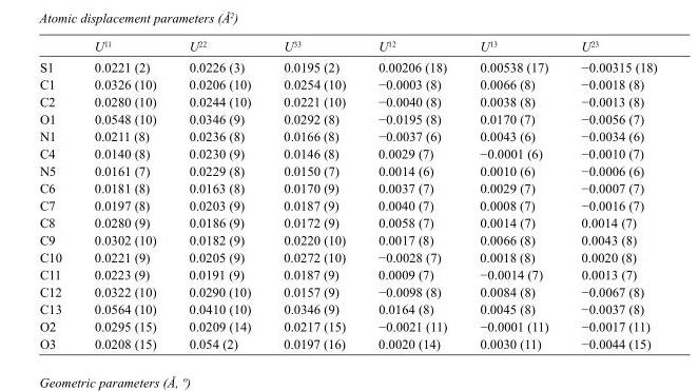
<table><thead><tr><td></td><td>U<sup>11</sup></td><td>U<sup>22</sup></td><td>U<sup>33</sup></td><td>U<sup>12</sup></td><td>U<sup>13</sup></td><td>U<sup>23</sup></td></tr></thead><tbody><tr><td>S1</td><td>0.0221 (2)</td><td>0.0226 (3)</td><td>0.0195 (2)</td><td>0.00206 (18)</td><td>0.00538 (17)</td><td>−0.00315 (18)</td></tr><tr><td>C1</td><td>0.0326 (10)</td><td>0.0206 (10)</td><td>0.0254 (10)</td><td>−0.0003 (8)</td><td>0.0066 (8)</td><td>−0.0018 (8)</td></tr><tr><td>C2</td><td>0.0280 (10)</td><td>0.0244 (10)</td><td>0.0221 (10)</td><td>−0.0040 (8)</td><td>0.0038 (8)</td><td>−0.0013 (8)</td></tr><tr><td>O1</td><td>0.0548 (10)</td><td>0.0346 (9)</td><td>0.0292 (8)</td><td>−0.0195 (8)</td><td>0.0170 (7)</td><td>−0.0056 (7)</td></tr><tr><td>N1</td><td>0.0211 (8)</td><td>0.0236 (8)</td><td>0.0166 (8)</td><td>−0.0037 (6)</td><td>0.0043 (6)</td><td>−0.0034 (6)</td></tr><tr><td>C4</td><td>0.0140 (8)</td><td>0.0230 (9)</td><td>0.0146 (8)</td><td>0.0029 (7)</td><td>−0.0001 (6)</td><td>−0.0010 (7)</td></tr><tr><td>N5</td><td>0.0161 (7)</td><td>0.0229 (8)</td><td>0.0150 (7)</td><td>0.0014 (6)</td><td>0.0010 (6)</td><td>−0.0006 (6)</td></tr><tr><td>C6</td><td>0.0181 (8)</td><td>0.0163 (8)</td><td>0.0170 (9)</td><td>0.0037 (7)</td><td>0.0029 (7)</td><td>−0.0007 (7)</td></tr><tr><td>C7</td><td>0.0197 (8)</td><td>0.0203 (9)</td><td>0.0187 (9)</td><td>0.0040 (7)</td><td>0.0008 (7)</td><td>−0.0016 (7)</td></tr><tr><td>C8</td><td>0.0280 (9)</td><td>0.0186 (9)</td><td>0.0172 (9)</td><td>0.0058 (7)</td><td>0.0014 (7)</td><td>0.0014 (7)</td></tr><tr><td>C9</td><td>0.0302 (10)</td><td>0.0182 (9)</td><td>0.0220 (10)</td><td>0.0017 (8)</td><td>0.0066 (8)</td><td>0.0043 (8)</td></tr><tr><td>C10</td><td>0.0221 (9)</td><td>0.0205 (9)</td><td>0.0272 (10)</td><td>−0.0028 (7)</td><td>0.0018 (8)</td><td>0.0020 (8)</td></tr><tr><td>C11</td><td>0.0223 (9)</td><td>0.0191 (9)</td><td>0.0187 (9)</td><td>0.0009 (7)</td><td>−0.0014 (7)</td><td>0.0013 (7)</td></tr><tr><td>C12</td><td>0.0322 (10)</td><td>0.0290 (10)</td><td>0.0157 (9)</td><td>−0.0098 (8)</td><td>0.0084 (8)</td><td>−0.0067 (8)</td></tr><tr><td>C13</td><td>0.0564 (10)</td><td>0.0410 (10)</td><td>0.0346 (9)</td><td>0.0164 (8)</td><td>0.0045 (8)</td><td>−0.0037 (8)</td></tr><tr><td>O2</td><td>0.0295 (15)</td><td>0.0209 (14)</td><td>0.0217 (15)</td><td>−0.0021 (11)</td><td>−0.0001 (11)</td><td>−0.0017 (11)</td></tr><tr><td>O3</td><td>0.0208 (15)</td><td>0.054 (2)</td><td>0.0197 (16)</td><td>0.0020 (14)</td><td>0.0030 (11)</td><td>−0.0044 (15)</td></tr></tbody></table>